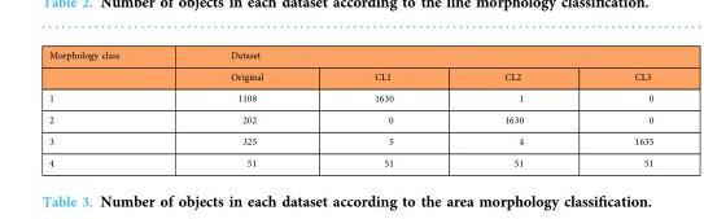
<table><thead><tr><td rowspan="2">Morphology class</td><td colspan="4">Dataset</td></tr><tr><td>Original</td><td>CL1</td><td>CL2</td><td>CL3</td></tr></thead><tbody><tr><td>1</td><td>1108</td><td>1630</td><td>1</td><td>0</td></tr><tr><td>2</td><td>202</td><td>0</td><td>1630</td><td>0</td></tr><tr><td>3</td><td>325</td><td>5</td><td>4</td><td>1635</td></tr><tr><td>4</td><td>51</td><td>51</td><td>51</td><td>51</td></tr></tbody></table>